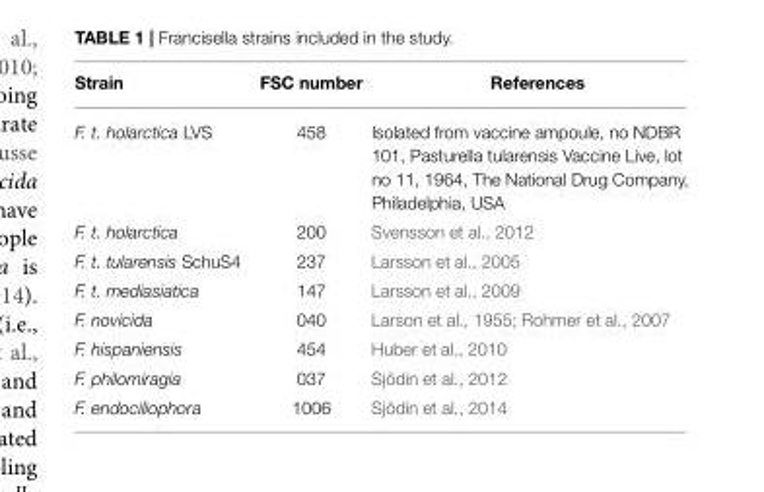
<table><thead><tr><td>Strain</td><td>FSC number</td><td>References</td></tr></thead><tbody><tr><td>F. t. holarctica LVS</td><td>458</td><td>Isolated from vaccine ampoule, no NDBR 101, Pasturella tularensis Vaccine Live, lot no 11, 1964, The National Drug Company, Philadelphia, USA</td></tr><tr><td>F. t. holarctica</td><td>200</td><td>Svensson et al., 2012</td></tr><tr><td>F. t. tularensis SchuS4</td><td>237</td><td>Larsson et al., 2005</td></tr><tr><td>F. t. mediasiatica</td><td>147</td><td>Larsson et al., 2009</td></tr><tr><td>F. novicida</td><td>040</td><td>Larson et al., 1955; Rohmer et al., 2007</td></tr><tr><td>F. hispaniensis</td><td>454</td><td>Huber et al., 2010</td></tr><tr><td>F. philomiragia</td><td>037</td><td>Sjödin et al., 2012</td></tr><tr><td>F. endociliophora</td><td>1006</td><td>Sjödin et al., 2014</td></tr></tbody></table>